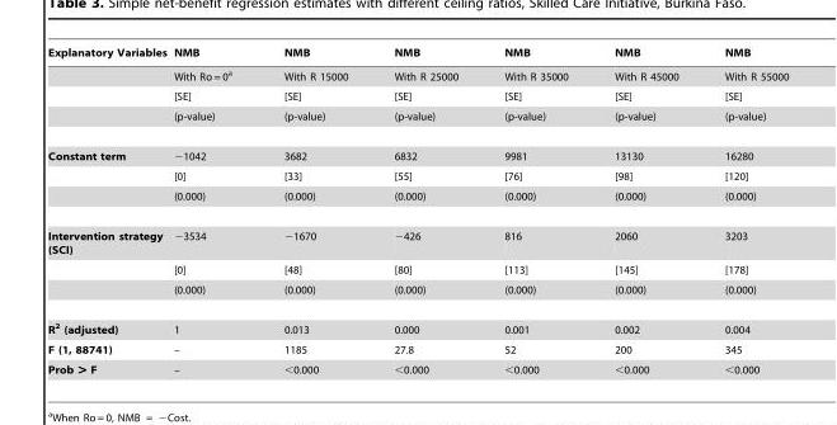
<table><thead><tr><td>Explanatory Variables</td><td>NMB</td><td>NMB</td><td>NMB</td><td>NMB</td><td>NMB</td><td>NMB</td></tr></thead><tbody><tr><td></td><td>With Ro = 0<sup>a</sup></td><td>With R 15000</td><td>With R 25000</td><td>With R 35000</td><td>With R 45000</td><td>With R 55000</td></tr><tr><td></td><td>[SE]</td><td>[SE]</td><td>[SE]</td><td>[SE]</td><td>[SE]</td><td>[SE]</td></tr><tr><td></td><td>(p-value)</td><td>(p-value)</td><td>(p-value)</td><td>(p-value)</td><td>(p-value)</td><td>(p-value)</td></tr><tr><td rowspan="3">Constant term</td><td>−1042</td><td>3682</td><td>6832</td><td>9981</td><td>13130</td><td>16280</td></tr><tr><td>[0]</td><td>[33]</td><td>[55]</td><td>[76]</td><td>[98]</td><td>[120]</td></tr><tr><td>(0.000)</td><td>(0.000)</td><td>(0.000)</td><td>(0.000)</td><td>(0.000)</td><td>(0.000)</td></tr><tr><td rowspan="3">Intervention strategy (SCI)</td><td>−3534</td><td>−1670</td><td>−426</td><td>816</td><td>2060</td><td>3203</td></tr><tr><td>[0]</td><td>[48]</td><td>[80]</td><td>[113]</td><td>[145]</td><td>[178]</td></tr><tr><td>(0.000)</td><td>(0.000)</td><td>(0.000)</td><td>(0.000)</td><td>(0.000)</td><td>(0.000)</td></tr><tr><td>R<sup>2</sup> (adjusted)</td><td>1</td><td>0.013</td><td>0.000</td><td>0.001</td><td>0.002</td><td>0.004</td></tr><tr><td>F (1, 88741)</td><td>–</td><td>1185</td><td>27.8</td><td>52</td><td>200</td><td>345</td></tr><tr><td>Prob &gt; F</td><td>–</td><td>&lt;0.000</td><td>&lt;0.000</td><td>&lt;0.000</td><td>&lt;0.000</td><td>&lt;0.000</td></tr></tbody></table>